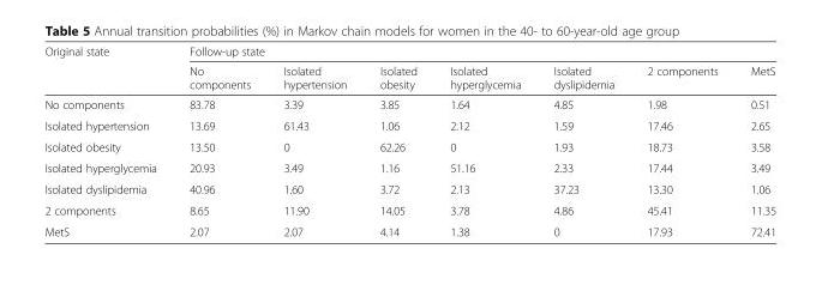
<table><thead><tr><td rowspan="2">Original state</td><td colspan="7">Follow-up state</td></tr><tr><td>No components</td><td>Isolated hypertension</td><td>Isolated obesity</td><td>Isolated hyperglycemia</td><td>Isolated dyslipidemia</td><td>2 components</td><td>MetS</td></tr></thead><tbody><tr><td>No components</td><td>83.78</td><td>3.39</td><td>3.85</td><td>1.64</td><td>4.85</td><td>1.98</td><td>0.51</td></tr><tr><td>Isolated hypertension</td><td>13.69</td><td>61.43</td><td>1.06</td><td>2.12</td><td>1.59</td><td>17.46</td><td>2.65</td></tr><tr><td>Isolated obesity</td><td>13.50</td><td>0</td><td>62.26</td><td>0</td><td>1.93</td><td>18.73</td><td>3.58</td></tr><tr><td>Isolated hyperglycemia</td><td>20.93</td><td>3.49</td><td>1.16</td><td>51.16</td><td>2.33</td><td>17.44</td><td>3.49</td></tr><tr><td>Isolated dyslipidemia</td><td>40.96</td><td>1.60</td><td>3.72</td><td>2.13</td><td>37.23</td><td>13.30</td><td>1.06</td></tr><tr><td>2 components</td><td>8.65</td><td>11.90</td><td>14.05</td><td>3.78</td><td>4.86</td><td>45.41</td><td>11.35</td></tr><tr><td>MetS</td><td>2.07</td><td>2.07</td><td>4.14</td><td>1.38</td><td>0</td><td>17.93</td><td>72.41</td></tr></tbody></table>